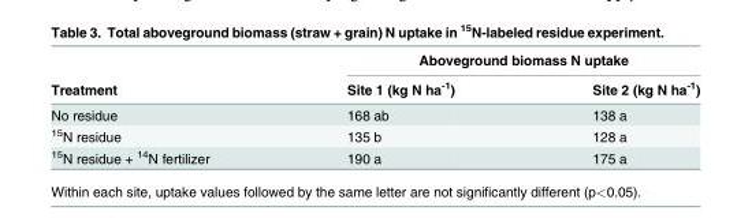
<table><thead><tr><td rowspan="2">Treatment</td><td colspan="2">Aboveground biomass N uptake</td></tr><tr><td>Site 1 (kg N ha<sup>-1</sup>)</td><td>Site 2 (kg N ha<sup>-1</sup>)</td></tr></thead><tbody><tr><td>No residue</td><td>168 ab</td><td>138 a</td></tr><tr><td><sup>15</sup>N residue</td><td>135 b</td><td>128 a</td></tr><tr><td><sup>15</sup>N residue + <sup>14</sup>N fertilizer</td><td>190 a</td><td>175 a</td></tr></tbody></table>